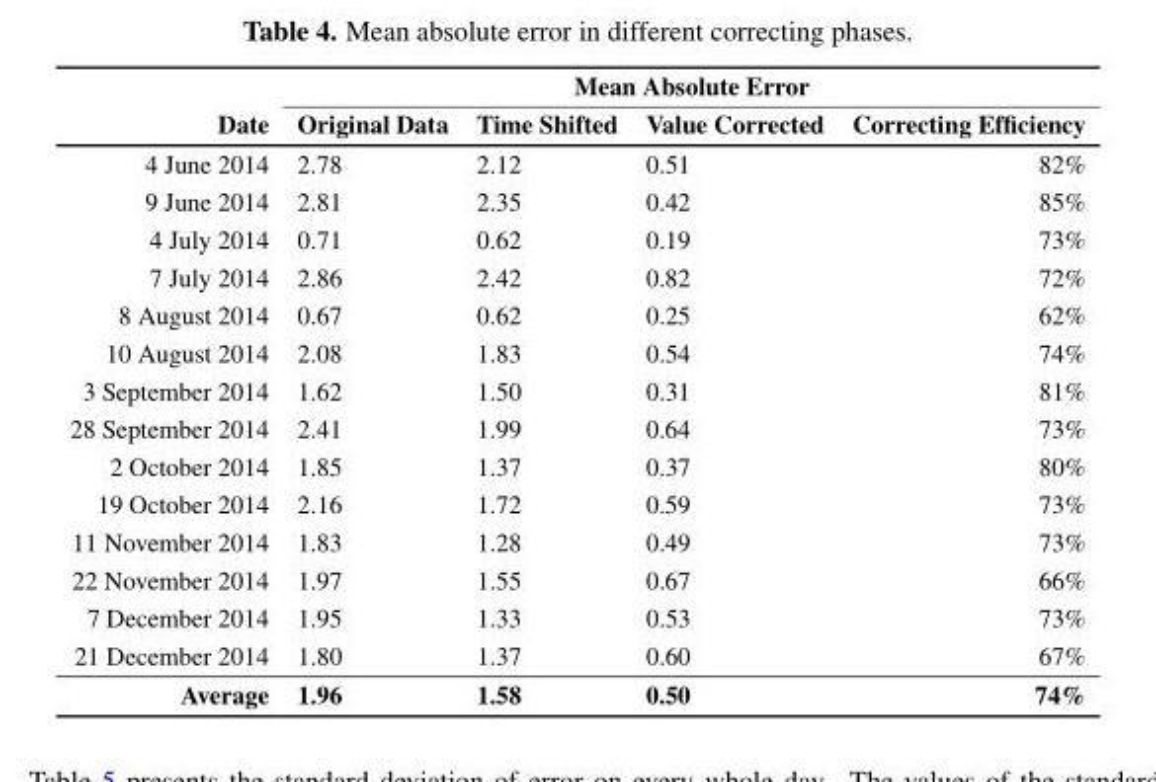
<table><thead><tr><td rowspan="2">Date</td><td colspan="4">Mean Absolute Error</td></tr><tr><td>Original Data</td><td>Time Shifted</td><td>Value Corrected</td><td>Correcting Efficiency</td></tr></thead><tbody><tr><td>4 June 2014</td><td>2.78</td><td>2.12</td><td>0.51</td><td>82%</td></tr><tr><td>9 June 2014</td><td>2.81</td><td>2.35</td><td>0.42</td><td>85%</td></tr><tr><td>4 July 2014</td><td>0.71</td><td>0.62</td><td>0.19</td><td>73%</td></tr><tr><td>7 July 2014</td><td>2.86</td><td>2.42</td><td>0.82</td><td>72%</td></tr><tr><td>8 August 2014</td><td>0.67</td><td>0.62</td><td>0.25</td><td>62%</td></tr><tr><td>10 August 2014</td><td>2.08</td><td>1.83</td><td>0.54</td><td>74%</td></tr><tr><td>3 September 2014</td><td>1.62</td><td>1.50</td><td>0.31</td><td>81%</td></tr><tr><td>28 September 2014</td><td>2.41</td><td>1.99</td><td>0.64</td><td>73%</td></tr><tr><td>2 October 2014</td><td>1.85</td><td>1.37</td><td>0.37</td><td>80%</td></tr><tr><td>19 October 2014</td><td>2.16</td><td>1.72</td><td>0.59</td><td>73%</td></tr><tr><td>11 November 2014</td><td>1.83</td><td>1.28</td><td>0.49</td><td>73%</td></tr><tr><td>22 November 2014</td><td>1.97</td><td>1.55</td><td>0.67</td><td>66%</td></tr><tr><td>7 December 2014</td><td>1.95</td><td>1.33</td><td>0.53</td><td>73%</td></tr><tr><td>21 December 2014</td><td>1.80</td><td>1.37</td><td>0.60</td><td>67%</td></tr><tr><td>Average</td><td>1.96</td><td>1.58</td><td>0.50</td><td>74%</td></tr></tbody></table>